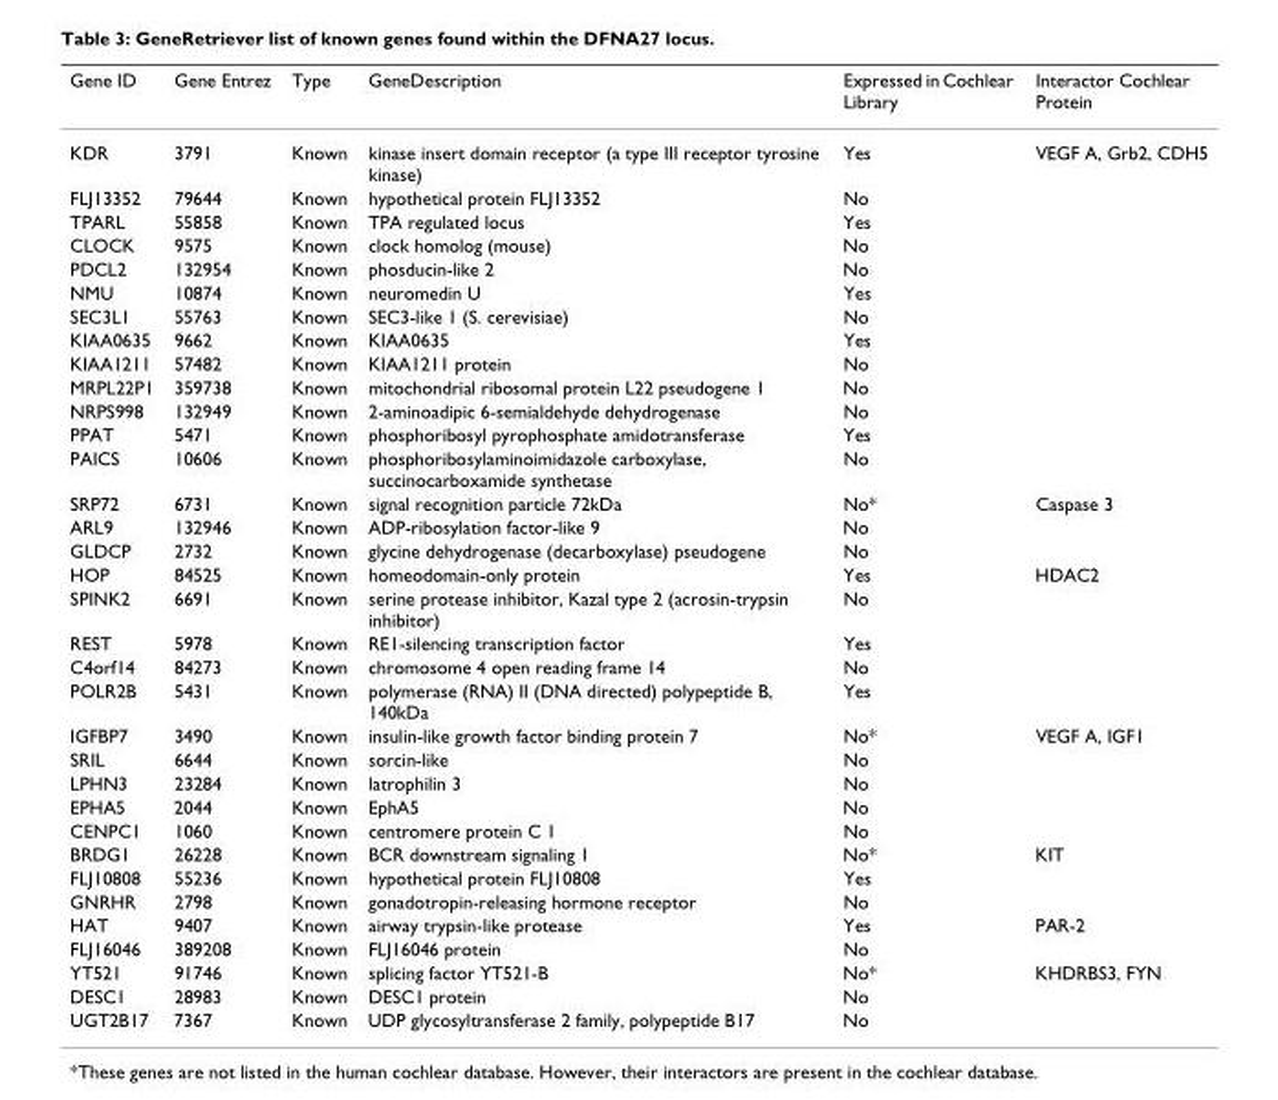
<table><thead><tr><td>Gene ID</td><td>Gene Entrez</td><td>Type</td><td>GeneDescription</td><td>Expressed in Cochlear Library</td><td>Interactor Cochlear Protein</td></tr></thead><tbody><tr><td>KDR</td><td>3791</td><td>Known</td><td>kinase insert domain receptor (a type III receptor tyrosine kinase)</td><td>Yes</td><td>VEGF A, Grb2, CDH5</td></tr><tr><td>FLJ13352</td><td>79644</td><td>Known</td><td>hypothetical protein FLJ13352</td><td>No</td><td></td></tr><tr><td>TPARL</td><td>55858</td><td>Known</td><td>TPA regulated locus</td><td>Yes</td><td></td></tr><tr><td>CLOCK</td><td>9575</td><td>Known</td><td>clock homolog (mouse)</td><td>No</td><td></td></tr><tr><td>PDCL2</td><td>132954</td><td>Known</td><td>phosducin-like 2</td><td>No</td><td></td></tr><tr><td>NMU</td><td>10874</td><td>Known</td><td>neuromedin U</td><td>Yes</td><td></td></tr><tr><td>SEC3L1</td><td>55763</td><td>Known</td><td>SEC3-like 1 (S. cerevisiae)</td><td>No</td><td></td></tr><tr><td>KIAA0635</td><td>9662</td><td>Known</td><td>KIAA0635</td><td>Yes</td><td></td></tr><tr><td>KIAA1211</td><td>57482</td><td>Known</td><td>KIAA1211 protein</td><td>No</td><td></td></tr><tr><td>MRPL22P1</td><td>359738</td><td>Known</td><td>mitochondrial ribosomal protein L22 pseudogene 1</td><td>No</td><td></td></tr><tr><td>NRPS998</td><td>132949</td><td>Known</td><td>2-aminoadipic 6-semialdehyde dehydrogenase</td><td>No</td><td></td></tr><tr><td>PPAT</td><td>5471</td><td>Known</td><td>phosphoribosyl pyrophosphate amidotransferase</td><td>Yes</td><td></td></tr><tr><td>PAICS</td><td>10606</td><td>Known</td><td>phosphoribosylaminoimidazole carboxylase, succinocarboxamide synthetase</td><td>No</td><td></td></tr><tr><td>SRP72</td><td>6731</td><td>Known</td><td>signal recognition particle 72kDa</td><td>No*</td><td>Caspase 3</td></tr><tr><td>ARL9</td><td>132946</td><td>Known</td><td>ADP-ribosylation factor-like 9</td><td>No</td><td></td></tr><tr><td>GLDCP</td><td>2732</td><td>Known</td><td>glycine dehydrogenase (decarboxylase) pseudogene</td><td>No</td><td></td></tr><tr><td>HOP</td><td>84525</td><td>Known</td><td>homeodomain-only protein</td><td>Yes</td><td>HDAC2</td></tr><tr><td>SPINK2</td><td>6691</td><td>Known</td><td>serine protease inhibitor, Kazal type 2 (acrosin-trypsin inhibitor)</td><td>No</td><td></td></tr><tr><td>REST</td><td>5978</td><td>Known</td><td>RE1-silencing transcription factor</td><td>Yes</td><td></td></tr><tr><td>C4orf14</td><td>84273</td><td>Known</td><td>chromosome 4 open reading frame 14</td><td>No</td><td></td></tr><tr><td>POLR2B</td><td>5431</td><td>Known</td><td>polymerase (RNA) II (DNA directed) polypeptide B, 140kDa</td><td>Yes</td><td></td></tr><tr><td>IGFBP7</td><td>3490</td><td>Known</td><td>insulin-like growth factor binding protein 7</td><td>No*</td><td>VEGF A, IGF1</td></tr><tr><td>SRIL</td><td>6644</td><td>Known</td><td>sorcin-like</td><td>No</td><td></td></tr><tr><td>LPHN3</td><td>23284</td><td>Known</td><td>latrophilin 3</td><td>No</td><td></td></tr><tr><td>EPHA5</td><td>2044</td><td>Known</td><td>EphA5</td><td>No</td><td></td></tr><tr><td>CENPC1</td><td>1060</td><td>Known</td><td>centromere protein C 1</td><td>No</td><td></td></tr><tr><td>BRDG1</td><td>26228</td><td>Known</td><td>BCR downstream signaling 1</td><td>No*</td><td>KIT</td></tr><tr><td>FLJ10808</td><td>55236</td><td>Known</td><td>hypothetical protein FLJ10808</td><td>Yes</td><td></td></tr><tr><td>GNRHR</td><td>2798</td><td>Known</td><td>gonadotropin-releasing hormone receptor</td><td>No</td><td></td></tr><tr><td>HAT</td><td>9407</td><td>Known</td><td>airway trypsin-like protease</td><td>Yes</td><td>PAR-2</td></tr><tr><td>FLJ16046</td><td>389208</td><td>Known</td><td>FLJ16046 protein</td><td>No</td><td></td></tr><tr><td>YT521</td><td>91746</td><td>Known</td><td>splicing factor YT521-B</td><td>No*</td><td>KHDRBS3, FYN</td></tr><tr><td>DESC1</td><td>28983</td><td>Known</td><td>DESC1 protein</td><td>No</td><td></td></tr><tr><td>UGT2B17</td><td>7367</td><td>Known</td><td>UDP glycosyltransferase 2 family, polypeptide B17</td><td>No</td><td></td></tr></tbody></table>